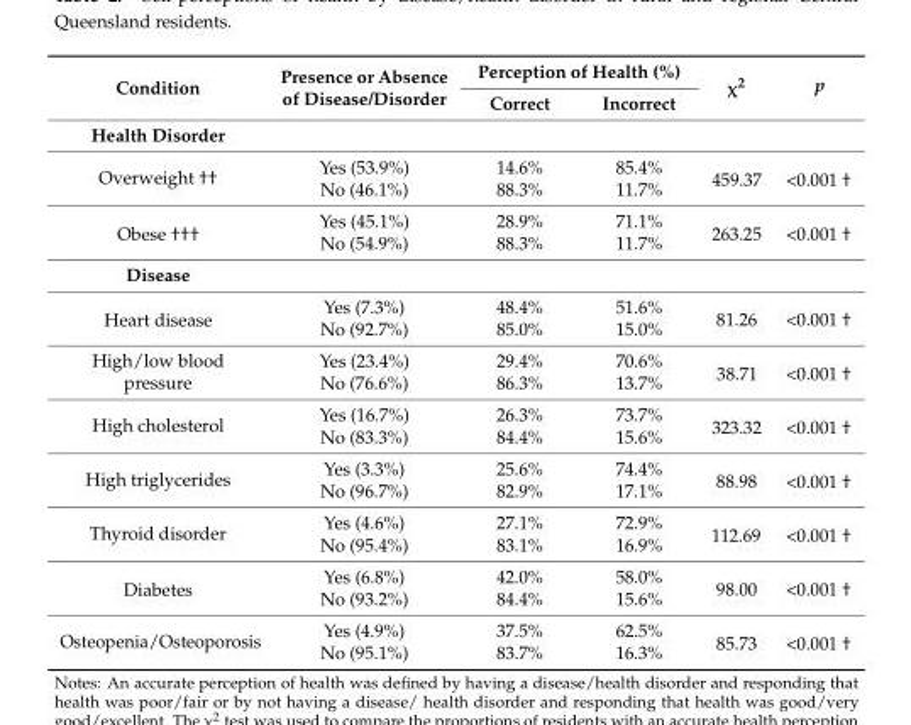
<table><thead><tr><td rowspan="2">Condition</td><td rowspan="2">Presence or Absence of Disease/Disorder</td><td colspan="2">Perception of Health (%)</td><td rowspan="2">χ<sup>2</sup></td><td rowspan="2">p</td></tr><tr><td>Correct</td><td>Incorrect</td></tr></thead><tbody><tr><td colspan="6">Health Disorder</td></tr><tr><td rowspan="2">Overweight ††</td><td>Yes (53.9%)</td><td>14.6%</td><td>85.4%</td><td rowspan="2">459.37</td><td rowspan="2">&lt;0.001 †</td></tr><tr><td>No (46.1%)</td><td>88.3%</td><td>11.7%</td></tr><tr><td rowspan="2">Obese †††</td><td>Yes (45.1%)</td><td>28.9%</td><td>71.1%</td><td rowspan="2">263.25</td><td rowspan="2">&lt;0.001 †</td></tr><tr><td>No (54.9%)</td><td>88.3%</td><td>11.7%</td></tr><tr><td colspan="6">Disease</td></tr><tr><td rowspan="2">Heart disease</td><td>Yes (7.3%)</td><td>48.4%</td><td>51.6%</td><td rowspan="2">81.26</td><td rowspan="2">&lt;0.001 †</td></tr><tr><td>No (92.7%)</td><td>85.0%</td><td>15.0%</td></tr><tr><td rowspan="2">High/low blood pressure</td><td>Yes (23.4%)</td><td>29.4%</td><td>70.6%</td><td rowspan="2">38.71</td><td rowspan="2">&lt;0.001 †</td></tr><tr><td>No (76.6%)</td><td>86.3%</td><td>13.7%</td></tr><tr><td rowspan="2">High cholesterol</td><td>Yes (16.7%)</td><td>26.3%</td><td>73.7%</td><td rowspan="2">323.32</td><td rowspan="2">&lt;0.001 †</td></tr><tr><td>No (83.3%)</td><td>84.4%</td><td>15.6%</td></tr><tr><td rowspan="2">High triglycerides</td><td>Yes (3.3%)</td><td>25.6%</td><td>74.4%</td><td rowspan="2">88.98</td><td rowspan="2">&lt;0.001 †</td></tr><tr><td>No (96.7%)</td><td>82.9%</td><td>17.1%</td></tr><tr><td rowspan="2">Thyroid disorder</td><td>Yes (4.6%)</td><td>27.1%</td><td>72.9%</td><td rowspan="2">112.69</td><td rowspan="2">&lt;0.001 †</td></tr><tr><td>No (95.4%)</td><td>83.1%</td><td>16.9%</td></tr><tr><td rowspan="2">Diabetes</td><td>Yes (6.8%)</td><td>42.0%</td><td>58.0%</td><td rowspan="2">98.00</td><td rowspan="2">&lt;0.001 †</td></tr><tr><td>No (93.2%)</td><td>84.4%</td><td>15.6%</td></tr><tr><td rowspan="2">Osteopenia/Osteoporosis</td><td>Yes (4.9%)</td><td>37.5%</td><td>62.5%</td><td rowspan="2">85.73</td><td rowspan="2">&lt;0.001 †</td></tr><tr><td>No (95.1%)</td><td>83.7%</td><td>16.3%</td></tr></tbody></table>